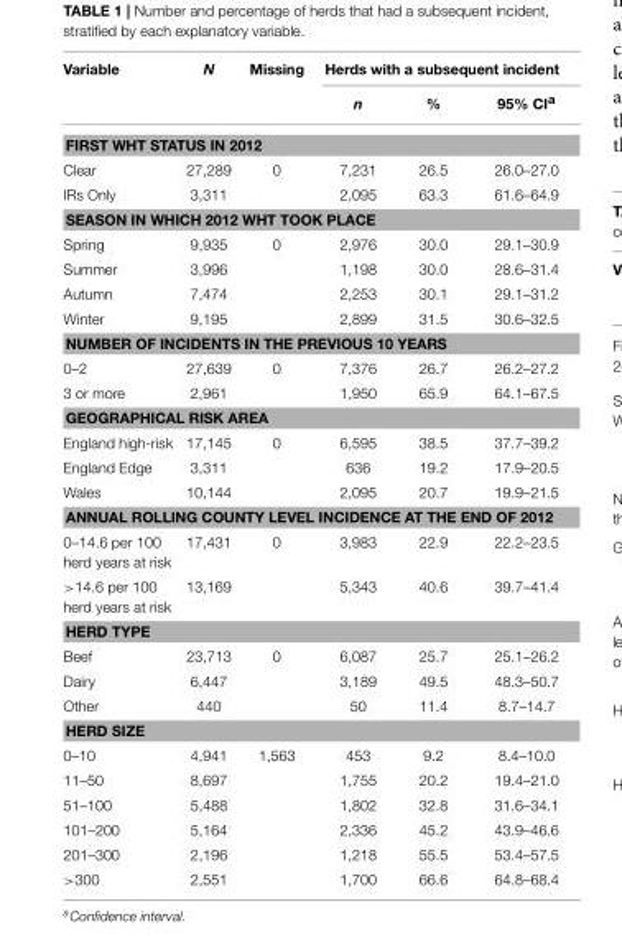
<table><thead><tr><td rowspan="2">Variable</td><td rowspan="2">N</td><td rowspan="2">Missing</td><td colspan="3">Herds with a subsequent incident</td></tr><tr><td>n</td><td>%</td><td>95% CI<sup>a</sup></td></tr></thead><tbody><tr><td colspan="6">FIRST WHT STATUS IN 2012</td></tr><tr><td>Clear</td><td>27,289</td><td>0</td><td>7,231</td><td>26.5</td><td>26.0–27.0</td></tr><tr><td>IRs Only</td><td>3,311</td><td></td><td>2,095</td><td>63.3</td><td>61.6–64.9</td></tr><tr><td colspan="6">SEASON IN WHICH 2012 WHT TOOK PLACE</td></tr><tr><td>Spring</td><td>9,935</td><td>0</td><td>2,976</td><td>30.0</td><td>29.1–30.9</td></tr><tr><td>Summer</td><td>3,996</td><td></td><td>1,198</td><td>30.0</td><td>28.6–31.4</td></tr><tr><td>Autumn</td><td>7,474</td><td></td><td>2,253</td><td>30.1</td><td>29.1–31.2</td></tr><tr><td>Winter</td><td>9,195</td><td></td><td>2,899</td><td>31.5</td><td>30.6–32.5</td></tr><tr><td colspan="6">NUMBER OF INCIDENTS IN THE PREVIOUS 10 YEARS</td></tr><tr><td>0–2</td><td>27,639</td><td>0</td><td>7,376</td><td>26.7</td><td>26.2–27.2</td></tr><tr><td>3 or more</td><td>2,961</td><td></td><td>1,950</td><td>65.9</td><td>64.1–67.5</td></tr><tr><td colspan="6">GEOGRAPHICAL RISK AREA</td></tr><tr><td>England high-risk</td><td>17,145</td><td>0</td><td>6,595</td><td>38.5</td><td>37.7–39.2</td></tr><tr><td>England Edge</td><td>3,311</td><td></td><td>636</td><td>19.2</td><td>17.9–20.5</td></tr><tr><td>Wales</td><td>10,144</td><td></td><td>2,095</td><td>20.7</td><td>19.9–21.5</td></tr><tr><td colspan="6">ANNUAL ROLLING COUNTY LEVEL INCIDENCE AT THE END OF 2012</td></tr><tr><td>0–14.6 per 100 herd years at risk</td><td>17,431</td><td>0</td><td>3,983</td><td>22.9</td><td>22.2–23.5</td></tr><tr><td>&gt;14.6 per 100 herd years at risk</td><td>13,169</td><td></td><td>5,343</td><td>40.6</td><td>39.7–41.4</td></tr><tr><td colspan="6">HERD TYPE</td></tr><tr><td>Beef</td><td>23,713</td><td>0</td><td>6,087</td><td>25.7</td><td>25.1–26.2</td></tr><tr><td>Dairy</td><td>6,447</td><td></td><td>3,189</td><td>49.5</td><td>48.3–50.7</td></tr><tr><td>Other</td><td>440</td><td></td><td>50</td><td>11.4</td><td>8.7–14.7</td></tr><tr><td colspan="6">HERD SIZE</td></tr><tr><td>0–10</td><td>4,941</td><td>1,563</td><td>453</td><td>9.2</td><td>8.4–10.0</td></tr><tr><td>11–50</td><td>8,697</td><td></td><td>1,755</td><td>20.2</td><td>19.4–21.0</td></tr><tr><td>51–100</td><td>5,488</td><td></td><td>1,802</td><td>32.8</td><td>31.6–34.1</td></tr><tr><td>101–200</td><td>5,164</td><td></td><td>2,336</td><td>45.2</td><td>43.9–46.6</td></tr><tr><td>201–300</td><td>2,196</td><td></td><td>1,218</td><td>55.5</td><td>53.4–57.5</td></tr><tr><td>&gt;300</td><td>2,551</td><td></td><td>1,700</td><td>66.6</td><td>64.8–68.4</td></tr></tbody></table>